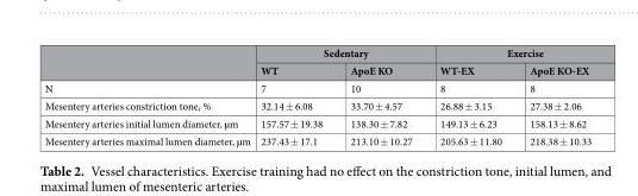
<table><thead><tr><td rowspan="2"></td><td colspan="2">Sedentary</td><td colspan="2">Exercise</td></tr><tr><td>WT</td><td>ApoE KO</td><td>WT-EX</td><td>ApoE KO-EX</td></tr></thead><tbody><tr><td>N</td><td>7</td><td>10</td><td>8</td><td>8</td></tr><tr><td>Mesentery arteries constriction tone, %</td><td>32.14 ± 6.08</td><td>33.70 ± 4.57</td><td>26.88 ± 3.15</td><td>27.38 ± 2.06</td></tr><tr><td>Mesentery arteries initial lumen diameter, µm</td><td>157.57 ± 19.38</td><td>138.30 ± 7.82</td><td>149.13 ± 6.23</td><td>158.13 ± 8.62</td></tr><tr><td>Mesentery arteries maximal lumen diameter, µm</td><td>237.43 ± 17.1</td><td>213.10 ± 10.27</td><td>205.63 ± 11.80</td><td>218.38 ± 10.33</td></tr></tbody></table>